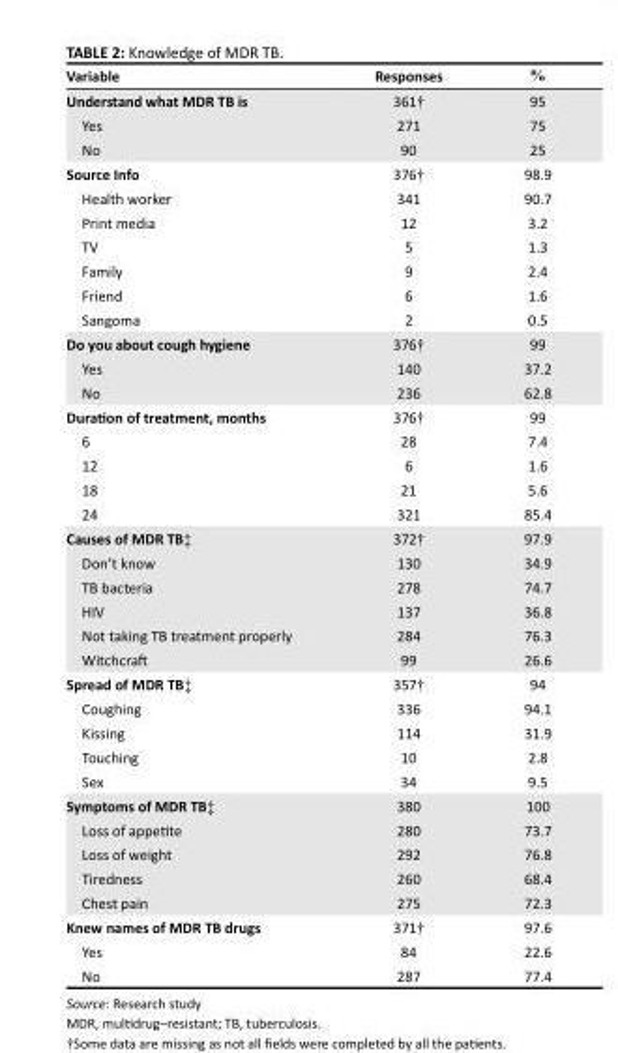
<table><thead><tr><td>Variable</td><td>Responses</td><td>%</td></tr></thead><tbody><tr><td>Understand what MDR TB is</td><td>361†</td><td>95</td></tr><tr><td>Yes</td><td>271</td><td>75</td></tr><tr><td>No</td><td>90</td><td>25</td></tr><tr><td>Source Info</td><td>376†</td><td>98.9</td></tr><tr><td>Health worker</td><td>341</td><td>90.7</td></tr><tr><td>Print media</td><td>12</td><td>3.2</td></tr><tr><td>TV</td><td>5</td><td>1.3</td></tr><tr><td>Family</td><td>9</td><td>2.4</td></tr><tr><td>Friend</td><td>6</td><td>1.6</td></tr><tr><td>Sangoma</td><td>2</td><td>0.5</td></tr><tr><td>Do you about cough hygiene</td><td>376†</td><td>99</td></tr><tr><td>Yes</td><td>140</td><td>37.2</td></tr><tr><td>No</td><td>236</td><td>62.8</td></tr><tr><td>Duration of treatment, months</td><td>376†</td><td>99</td></tr><tr><td>6</td><td>28</td><td>7.4</td></tr><tr><td>12</td><td>6</td><td>1.6</td></tr><tr><td>18</td><td>21</td><td>5.6</td></tr><tr><td>24</td><td>321</td><td>85.4</td></tr><tr><td>Causes of MDR TB‡</td><td>372†</td><td>97.9</td></tr><tr><td>Don’t know</td><td>130</td><td>34.9</td></tr><tr><td>TB bacteria</td><td>278</td><td>74.7</td></tr><tr><td>HIV</td><td>137</td><td>36.8</td></tr><tr><td>Not taking TB treatment properly</td><td>284</td><td>76.3</td></tr><tr><td>Witchcraft</td><td>99</td><td>26.6</td></tr><tr><td>Spread of MDR TB‡</td><td>357†</td><td>94</td></tr><tr><td>Coughing</td><td>336</td><td>94.1</td></tr><tr><td>Kissing</td><td>114</td><td>31.9</td></tr><tr><td>Touching</td><td>10</td><td>2.8</td></tr><tr><td>Sex</td><td>34</td><td>9.5</td></tr><tr><td>Symptoms of MDR TB‡</td><td>380</td><td>100</td></tr><tr><td>Loss of appetite</td><td>280</td><td>73.7</td></tr><tr><td>Loss of weight</td><td>292</td><td>76.8</td></tr><tr><td>Tiredness</td><td>260</td><td>68.4</td></tr><tr><td>Chest pain</td><td>275</td><td>72.3</td></tr><tr><td>Knew names of MDR TB drugs</td><td>371†</td><td>97.6</td></tr><tr><td>Yes</td><td>84</td><td>22.6</td></tr><tr><td>No</td><td>287</td><td>77.4</td></tr></tbody></table>